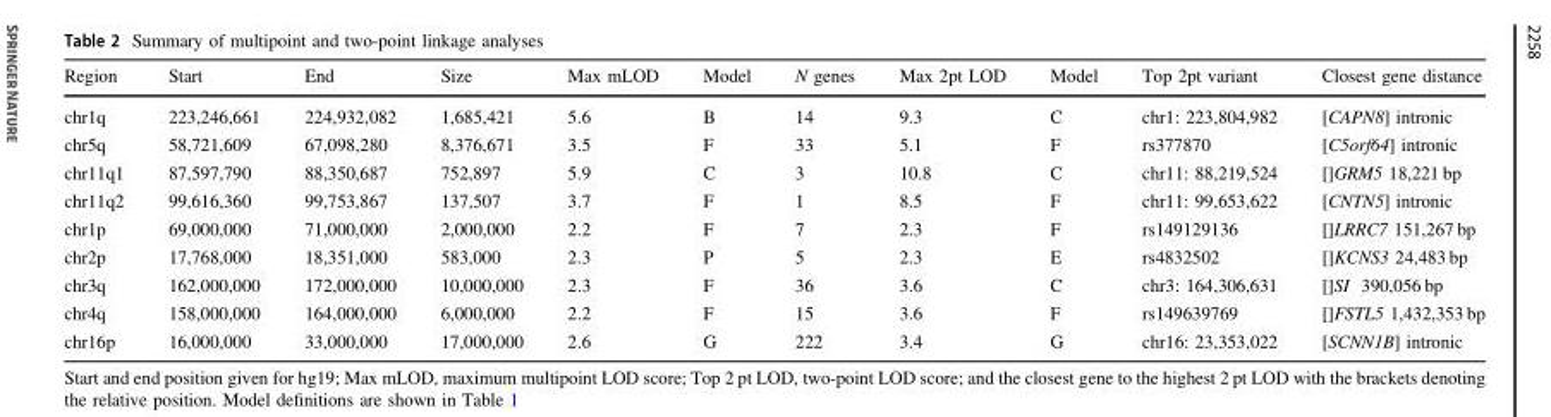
<table><thead><tr><td>Region</td><td>Start</td><td>End</td><td>Size</td><td>Max mLOD</td><td>Model</td><td>N genes</td><td>Max 2pt LOD</td><td>Model</td><td>Top 2pt variant</td><td>Closest gene distance</td></tr></thead><tbody><tr><td>chr1q</td><td>223,246,661</td><td>224,932,082</td><td>1,685,421</td><td>5.6</td><td>B</td><td>14</td><td>9.3</td><td>C</td><td>chr1: 223,804,982</td><td>[CAPN8] intronic</td></tr><tr><td>chr5q</td><td>58,721,609</td><td>67,098,280</td><td>8,376,671</td><td>3.5</td><td>F</td><td>33</td><td>5.1</td><td>F</td><td>rs377870</td><td>[C5orf64] intronic</td></tr><tr><td>chr11q1</td><td>87,597,790</td><td>88,350,687</td><td>752,897</td><td>5.9</td><td>C</td><td>3</td><td>10.8</td><td>C</td><td>chr11: 88,219,524</td><td>[]GRM5 18,221 bp</td></tr><tr><td>chr11q2</td><td>99,616,360</td><td>99,753,867</td><td>137,507</td><td>3.7</td><td>F</td><td>1</td><td>8.5</td><td>F</td><td>chr11: 99,653,622</td><td>[CNTN5] intronic</td></tr><tr><td>chr1p</td><td>69,000,000</td><td>71,000,000</td><td>2,000,000</td><td>2.2</td><td>F</td><td>7</td><td>2.3</td><td>F</td><td>rs149129136</td><td>[]LRRC7 151,267 bp</td></tr><tr><td>chr2p</td><td>17,768,000</td><td>18,351,000</td><td>583,000</td><td>2.3</td><td>P</td><td>5</td><td>2.3</td><td>E</td><td>rs4832502</td><td>[]KCNS3 24,483 bp</td></tr><tr><td>chr3q</td><td>162,000,000</td><td>172,000,000</td><td>10,000,000</td><td>2.3</td><td>F</td><td>36</td><td>3.6</td><td>C</td><td>chr3: 164,306,631</td><td>[]SI 390,056 bp</td></tr><tr><td>chr4q</td><td>158,000,000</td><td>164,000,000</td><td>6,000,000</td><td>2.2</td><td>F</td><td>15</td><td>3.6</td><td>F</td><td>rs149639769</td><td>[]FSTL5 1,432,353 bp</td></tr><tr><td>chr16p</td><td>16,000,000</td><td>33,000,000</td><td>17,000,000</td><td>2.6</td><td>G</td><td>222</td><td>3.4</td><td>G</td><td>chr16: 23,353,022</td><td>[SCNN1B] intronic</td></tr></tbody></table>